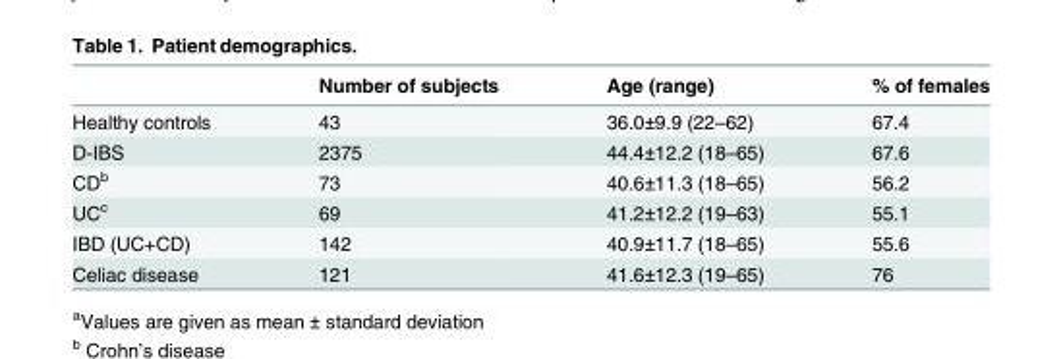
<table><thead><tr><td></td><td>Number of subjects</td><td>Age (range)</td><td>% of females</td></tr></thead><tbody><tr><td>Healthy controls</td><td>43</td><td>36.0±9.9 (22–62)</td><td>67.4</td></tr><tr><td>D-IBS</td><td>2375</td><td>44.4±12.2 (18–65)</td><td>67.6</td></tr><tr><td>CD<sup>b</sup></td><td>73</td><td>40.6±11.3 (18–65)</td><td>56.2</td></tr><tr><td>UC<sup>c</sup></td><td>69</td><td>41.2±12.2 (19–63)</td><td>55.1</td></tr><tr><td>IBD (UC+CD)</td><td>142</td><td>40.9±11.7 (18–65)</td><td>55.6</td></tr><tr><td>Celiac disease</td><td>121</td><td>41.6±12.3 (19–65)</td><td>76</td></tr></tbody></table>